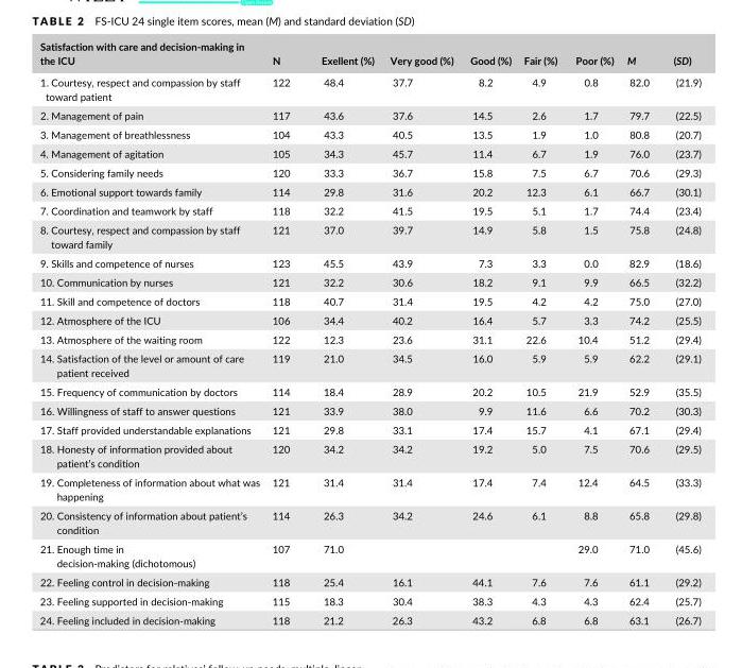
<table><thead><tr><td>Satisfaction with care and decision- making in the ICU</td><td>N</td><td>Exellent (%)</td><td>Very good (%)</td><td>Good (%)</td><td>Fair (%)</td><td>Poor (%)</td><td>M</td><td>(SD)</td></tr></thead><tbody><tr><td>1. Courtesy, respect and compassion by staff toward patient</td><td>122</td><td>48.4</td><td>37.7</td><td>8.2</td><td>4.9</td><td>0.8</td><td>82.0</td><td>(21.9)</td></tr><tr><td>2. Management of pain</td><td>117</td><td>43.6</td><td>37.6</td><td>14.5</td><td>2.6</td><td>1.7</td><td>79.7</td><td>(22.5)</td></tr><tr><td>3. Management of breathlessness</td><td>104</td><td>43.3</td><td>40.5</td><td>13.5</td><td>1.9</td><td>1.0</td><td>80.8</td><td>(20.7)</td></tr><tr><td>4. Management of agitation</td><td>105</td><td>34.3</td><td>45.7</td><td>11.4</td><td>6.7</td><td>1.9</td><td>76.0</td><td>(23.7)</td></tr><tr><td>5. Considering family needs</td><td>120</td><td>33.3</td><td>36.7</td><td>15.8</td><td>7.5</td><td>6.7</td><td>70.6</td><td>(29.3)</td></tr><tr><td>6. Emotional support towards family</td><td>114</td><td>29.8</td><td>31.6</td><td>20.2</td><td>12.3</td><td>6.1</td><td>66.7</td><td>(30.1)</td></tr><tr><td>7. Coordination and teamwork by staff</td><td>118</td><td>32.2</td><td>41.5</td><td>19.5</td><td>5.1</td><td>1.7</td><td>74.4</td><td>(23.4)</td></tr><tr><td>8. Courtesy, respect and compassion by staff toward family</td><td>121</td><td>37.0</td><td>39.7</td><td>14.9</td><td>5.8</td><td>1.5</td><td>75.8</td><td>(24.8)</td></tr><tr><td>9. Skills and competence of nurses</td><td>123</td><td>45.5</td><td>43.9</td><td>7.3</td><td>3.3</td><td>0.0</td><td>82.9</td><td>(18.6)</td></tr><tr><td>10. Communication by nurses</td><td>121</td><td>32.2</td><td>30.6</td><td>18.2</td><td>9.1</td><td>9.9</td><td>66.5</td><td>(32.2)</td></tr><tr><td>11. Skill and competence of doctors</td><td>118</td><td>40.7</td><td>31.4</td><td>19.5</td><td>4.2</td><td>4.2</td><td>75.0</td><td>(27.0)</td></tr><tr><td>12. Atmosphere of the ICU</td><td>106</td><td>34.4</td><td>40.2</td><td>16.4</td><td>5.7</td><td>3.3</td><td>74.2</td><td>(25.5)</td></tr><tr><td>13. Atmosphere of the waiting room</td><td>122</td><td>12.3</td><td>23.6</td><td>31.1</td><td>22.6</td><td>10.4</td><td>51.2</td><td>(29.4)</td></tr><tr><td>14. Satisfaction of the level or amount of care patient received</td><td>119</td><td>21.0</td><td>34.5</td><td>16.0</td><td>5.9</td><td>5.9</td><td>62.2</td><td>(29.1)</td></tr><tr><td>15. Frequency of communication by doctors</td><td>114</td><td>18.4</td><td>28.9</td><td>20.2</td><td>10.5</td><td>21.9</td><td>52.9</td><td>(35.5)</td></tr><tr><td>16. Willingness of staff to answer questions</td><td>121</td><td>33.9</td><td>38.0</td><td>9.9</td><td>11.6</td><td>6.6</td><td>70.2</td><td>(30.3)</td></tr><tr><td>17. Staff provided understandable explanations</td><td>121</td><td>29.8</td><td>33.1</td><td>17.4</td><td>15.7</td><td>4.1</td><td>67.1</td><td>(29.4)</td></tr><tr><td>18. Honesty of information provided about patient’s condition</td><td>120</td><td>34.2</td><td>34.2</td><td>19.2</td><td>5.0</td><td>7.5</td><td>70.6</td><td>(29.5)</td></tr><tr><td>19. Completeness of information about what was happening</td><td>121</td><td>31.4</td><td>31.4</td><td>17.4</td><td>7.4</td><td>12.4</td><td>64.5</td><td>(33.3)</td></tr><tr><td>20. Consistency of information about patient’s condition</td><td>114</td><td>26.3</td><td>34.2</td><td>24.6</td><td>6.1</td><td>8.8</td><td>65.8</td><td>(29.8)</td></tr><tr><td>21. Enough time in decision- making (dichotomous)</td><td>107</td><td>71.0</td><td></td><td></td><td></td><td>29.0</td><td>71.0</td><td>(45.6)</td></tr><tr><td>22. Feeling control in decision- making</td><td>118</td><td>25.4</td><td>16.1</td><td>44.1</td><td>7.6</td><td>7.6</td><td>61.1</td><td>(29.2)</td></tr><tr><td>23. Feeling supported in decision- making</td><td>115</td><td>18.3</td><td>30.4</td><td>38.3</td><td>4.3</td><td>4.3</td><td>62.4</td><td>(25.7)</td></tr><tr><td>24. Feeling included in decision- making</td><td>118</td><td>21.2</td><td>26.3</td><td>43.2</td><td>6.8</td><td>6.8</td><td>63.1</td><td>(26.7)</td></tr></tbody></table>